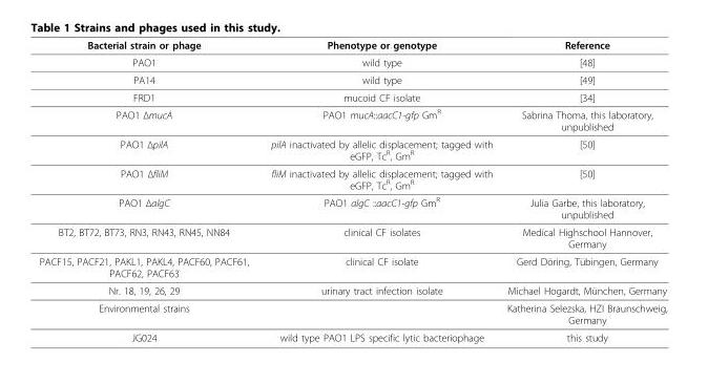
<table><thead><tr><td>Bacterial strain or phage</td><td>Phenotype or genotype</td><td>Reference</td></tr></thead><tbody><tr><td>PAO1</td><td>wild type</td><td>[48]</td></tr><tr><td>PA14</td><td>wild type</td><td>[49]</td></tr><tr><td>FRD1</td><td>mucoid CF isolate</td><td>[34]</td></tr><tr><td>PAO1 ΔmucA</td><td>PAO1 mucA::aacC1-gfp Gm<sup>R</sup></td><td>Sabrina Thoma, this laboratory, unpublished</td></tr><tr><td>PAO1 ΔpilA</td><td>pilA inactivated by allelic displacement; tagged with eGFP, Tc<sup>R</sup>, Gm<sup>R</sup></td><td>[50]</td></tr><tr><td>PAO1 ΔfliM</td><td>fliM inactivated by allelic displacement; tagged with eGFP, Tc<sup>R</sup>, Gm<sup>R</sup></td><td>[50]</td></tr><tr><td>PAO1 ΔalgC</td><td>PAO1 algC ::aacC1-gfp Gm<sup>R</sup></td><td>Julia Garbe, this laboratory, unpublished</td></tr><tr><td>BT2, BT72, BT73, RN3, RN43, RN45, NN84</td><td>clinical CF isolates</td><td>Medical Highschool Hannover, Germany</td></tr><tr><td>PACF15, PACF21, PAKL1, PAKL4, PACF60, PACF61, PACF62, PACF63</td><td>clinical CF isolate</td><td>Gerd Döring, Tübingen, Germany</td></tr><tr><td>Nr. 18, 19, 26, 29</td><td>urinary tract infection isolate</td><td>Michael Hogardt, München, Germany</td></tr><tr><td>Environmental strains</td><td></td><td>Katherina Selezska, HZI Braunschweig, Germany</td></tr><tr><td>JG024</td><td>wild type PAO1 LPS specific lytic bacteriophage</td><td>this study</td></tr></tbody></table>